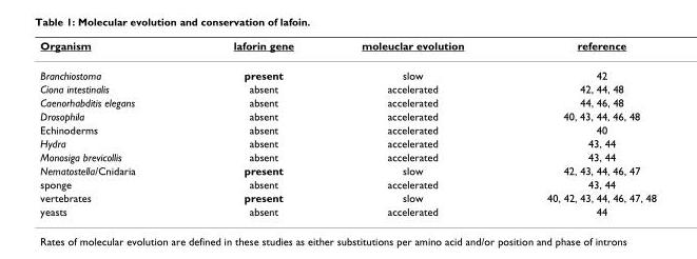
<table><thead><tr><td>Organism</td><td>laforin gene</td><td>moleuclar evolution</td><td>reference</td></tr></thead><tbody><tr><td>Branchiostoma</td><td>present</td><td>slow</td><td>42</td></tr><tr><td>Ciona intestinalis</td><td>absent</td><td>accelerated</td><td>42, 44, 48</td></tr><tr><td>Caenorhabditis elegans</td><td>absent</td><td>accelerated</td><td>44, 46, 48</td></tr><tr><td>Drosophila</td><td>absent</td><td>accelerated</td><td>40, 43, 44, 46, 48</td></tr><tr><td>Echinoderms</td><td>absent</td><td>accelerated</td><td>40</td></tr><tr><td>Hydra</td><td>absent</td><td>accelerated</td><td>43, 44</td></tr><tr><td>Monosiga brevicollis</td><td>absent</td><td>accelerated</td><td>43, 44</td></tr><tr><td>Nematostella/Cnidaria</td><td>present</td><td>slow</td><td>42, 43, 44, 46, 47</td></tr><tr><td>sponge</td><td>absent</td><td>accelerated</td><td>43, 44</td></tr><tr><td>vertebrates</td><td>present</td><td>slow</td><td>40, 42, 43, 44, 46, 47, 48</td></tr><tr><td>yeasts</td><td>absent</td><td>accelerated</td><td>44</td></tr></tbody></table>